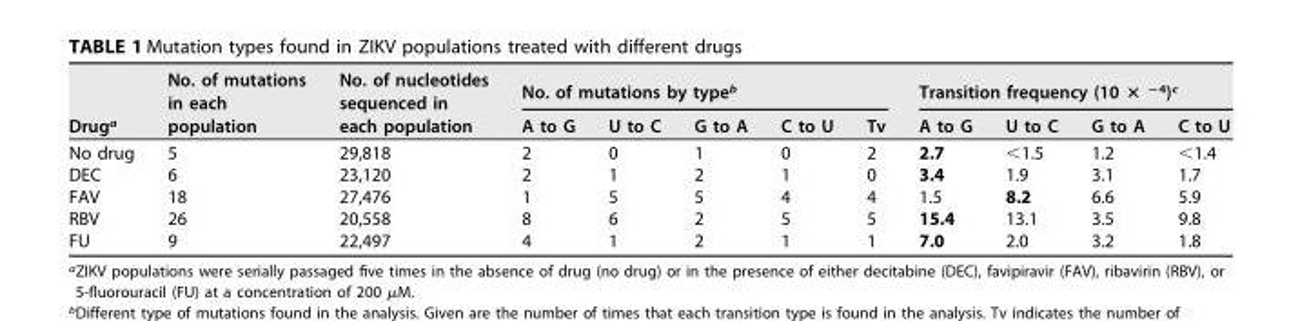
<table><thead><tr><td rowspan="2">Drug<sup>a</sup></td><td rowspan="2">No. of mutations in each population</td><td rowspan="2">No. of nucleotides sequenced in each population</td><td colspan="5">No. of mutations by type<sup>b</sup></td><td colspan="4">Transition frequency (10 × <sup>−4</sup>)<sup>c</sup></td></tr><tr><td>A to G</td><td>U to C</td><td>G to A</td><td>C to U</td><td>Tv</td><td>A to G</td><td>U to C</td><td>G to A</td><td>C to U</td></tr></thead><tbody><tr><td>No drug</td><td>5</td><td>29,818</td><td>2</td><td>0</td><td>1</td><td>0</td><td>2</td><td>2.7</td><td>&lt;1.5</td><td>1.2</td><td>&lt;1.4</td></tr><tr><td>DEC</td><td>6</td><td>23,120</td><td>2</td><td>1</td><td>2</td><td>1</td><td>0</td><td>3.4</td><td>1.9</td><td>3.1</td><td>1.7</td></tr><tr><td>FAV</td><td>18</td><td>27,476</td><td>1</td><td>5</td><td>5</td><td>4</td><td>4</td><td>1.5</td><td>8.2</td><td>6.6</td><td>5.9</td></tr><tr><td>RBV</td><td>26</td><td>20,558</td><td>8</td><td>6</td><td>2</td><td>5</td><td>5</td><td>15.4</td><td>13.1</td><td>3.5</td><td>9.8</td></tr><tr><td>FU</td><td>9</td><td>22,497</td><td>4</td><td>1</td><td>2</td><td>1</td><td>1</td><td>7.0</td><td>2.0</td><td>3.2</td><td>1.8</td></tr></tbody></table>